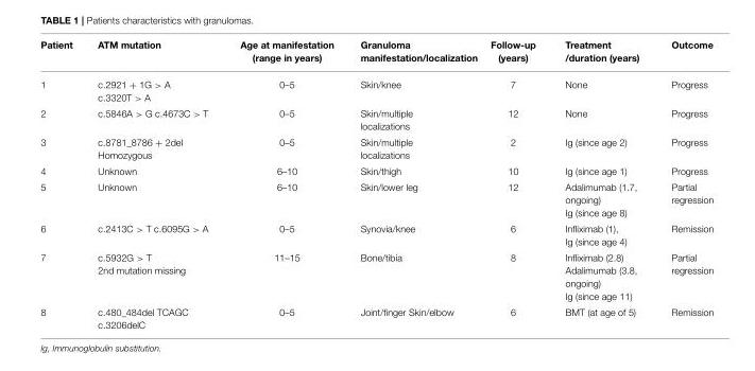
<table><thead><tr><td>Patient</td><td>ATM mutation</td><td>Age at manifestation (range in years)</td><td>Granuloma manifestation/localization</td><td>Follow-up (years)</td><td>Treatment /duration (years)</td><td>Outcome</td></tr></thead><tbody><tr><td>1</td><td>c.2921 + 1G &gt; A c.3320T &gt; A</td><td>0–5</td><td>Skin/knee</td><td>7</td><td>None</td><td>Progress</td></tr><tr><td>2</td><td>c.5846A &gt; G c.4673C &gt; T</td><td>0–5</td><td>Skin/multiple localizations</td><td>12</td><td>None</td><td>Progress</td></tr><tr><td>3</td><td>c.8781_8786 + 2del Homozygous</td><td>0–5</td><td>Skin/multiple localizations</td><td>2</td><td>Ig (since age 2)</td><td>Progress</td></tr><tr><td>4</td><td>Unknown</td><td>6–10</td><td>Skin/thigh</td><td>10</td><td>Ig (since age 1)</td><td>Progress</td></tr><tr><td>5</td><td>Unknown</td><td>6–10</td><td>Skin/lower leg</td><td>12</td><td>Adalimumab (1.7, ongoing) Ig (since age 8)</td><td>Partial regression</td></tr><tr><td>6</td><td>c.2413C &gt; T c.6095G &gt; A</td><td>0–5</td><td>Synovia/knee</td><td>6</td><td>Infliximab (1), Ig (since age 4)</td><td>Remission</td></tr><tr><td>7</td><td>c.5932G &gt; T 2nd mutation missing</td><td>11–15</td><td>Bone/tibia</td><td>8</td><td>Infliximab (2.8) Adalimumab (3.8, ongoing) Ig (since age 11)</td><td>Partial regression</td></tr><tr><td>8</td><td>c.480_484del TCAGC c.3206delC</td><td>0–5</td><td>Joint/finger Skin/elbow</td><td>6</td><td>BMT (at age of 5)</td><td>Remission</td></tr></tbody></table>